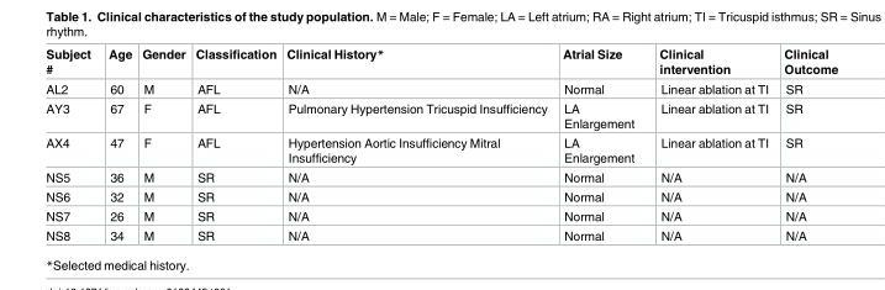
<table><thead><tr><td>Subject #</td><td>Age</td><td>Gender</td><td>Classification</td><td>Clinical History*</td><td>Atrial Size</td><td>Clinical intervention</td><td>Clinical Outcome</td></tr></thead><tbody><tr><td>AL2</td><td>60</td><td>M</td><td>AFL</td><td>N/A</td><td>Normal</td><td>Linear ablation at TI</td><td>SR</td></tr><tr><td>AY3</td><td>67</td><td>F</td><td>AFL</td><td>Pulmonary Hypertension Tricuspid Insufficiency</td><td>LA Enlargement</td><td>Linear ablation at TI</td><td>SR</td></tr><tr><td>AX4</td><td>47</td><td>F</td><td>AFL</td><td>Hypertension Aortic Insufficiency Mitral Insufficiency</td><td>LA Enlargement</td><td>Linear ablation at TI</td><td>SR</td></tr><tr><td>NS5</td><td>36</td><td>M</td><td>SR</td><td>N/A</td><td>Normal</td><td>N/A</td><td>N/A</td></tr><tr><td>NS6</td><td>32</td><td>M</td><td>SR</td><td>N/A</td><td>Normal</td><td>N/A</td><td>N/A</td></tr><tr><td>NS7</td><td>26</td><td>M</td><td>SR</td><td>N/A</td><td>Normal</td><td>N/A</td><td>N/A</td></tr><tr><td>NS8</td><td>34</td><td>M</td><td>SR</td><td>N/A</td><td>Normal</td><td>N/A</td><td>N/A</td></tr></tbody></table>